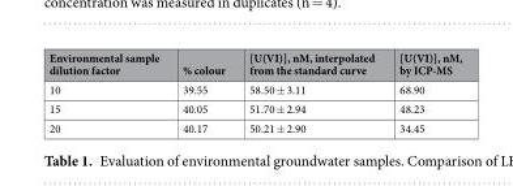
<table><thead><tr><td>Environmental sample dilution factor</td><td>% colour</td><td>[U(VI)], nM, interpolated from the standard curve</td><td>[U(VI)], nM, by ICP-MS</td></tr></thead><tbody><tr><td>10</td><td>39.55</td><td>58.50 ± 3.11</td><td>68.90</td></tr><tr><td>15</td><td>40.05</td><td>51.70 ± 2.94</td><td>48.23</td></tr><tr><td>20</td><td>40.17</td><td>50.21 ± 2.90</td><td>34.45</td></tr></tbody></table>